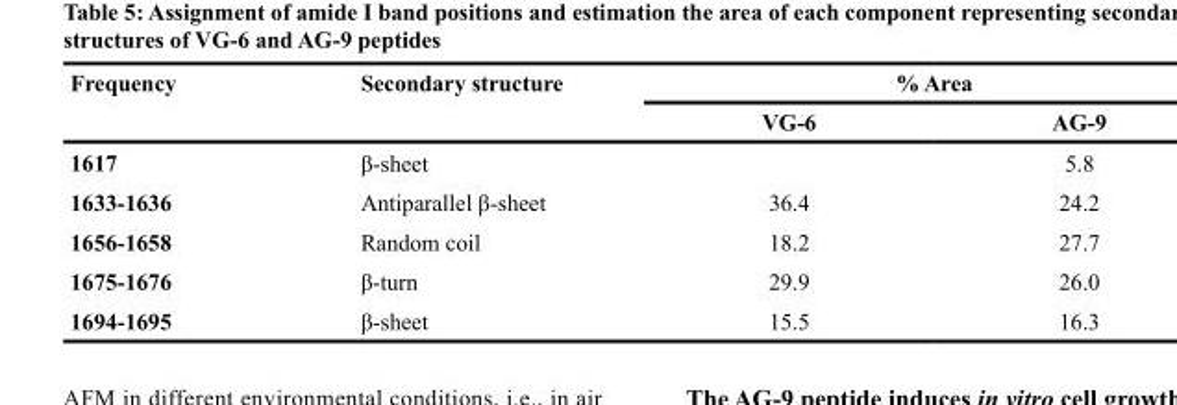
<table><thead><tr><td rowspan="2">Frequency</td><td rowspan="2">Secondary structure</td><td colspan="2">% Area</td></tr><tr><td>VG-6</td><td>AG-9</td></tr></thead><tbody><tr><td>1617</td><td>β-sheet</td><td></td><td>5.8</td></tr><tr><td>1633-1636</td><td>Antiparallel β-sheet</td><td>36.4</td><td>24.2</td></tr><tr><td>1656-1658</td><td>Random coil</td><td>18.2</td><td>27.7</td></tr><tr><td>1675-1676</td><td>β-turn</td><td>29.9</td><td>26.0</td></tr><tr><td>1694-1695</td><td>β-sheet</td><td>15.5</td><td>16.3</td></tr></tbody></table>